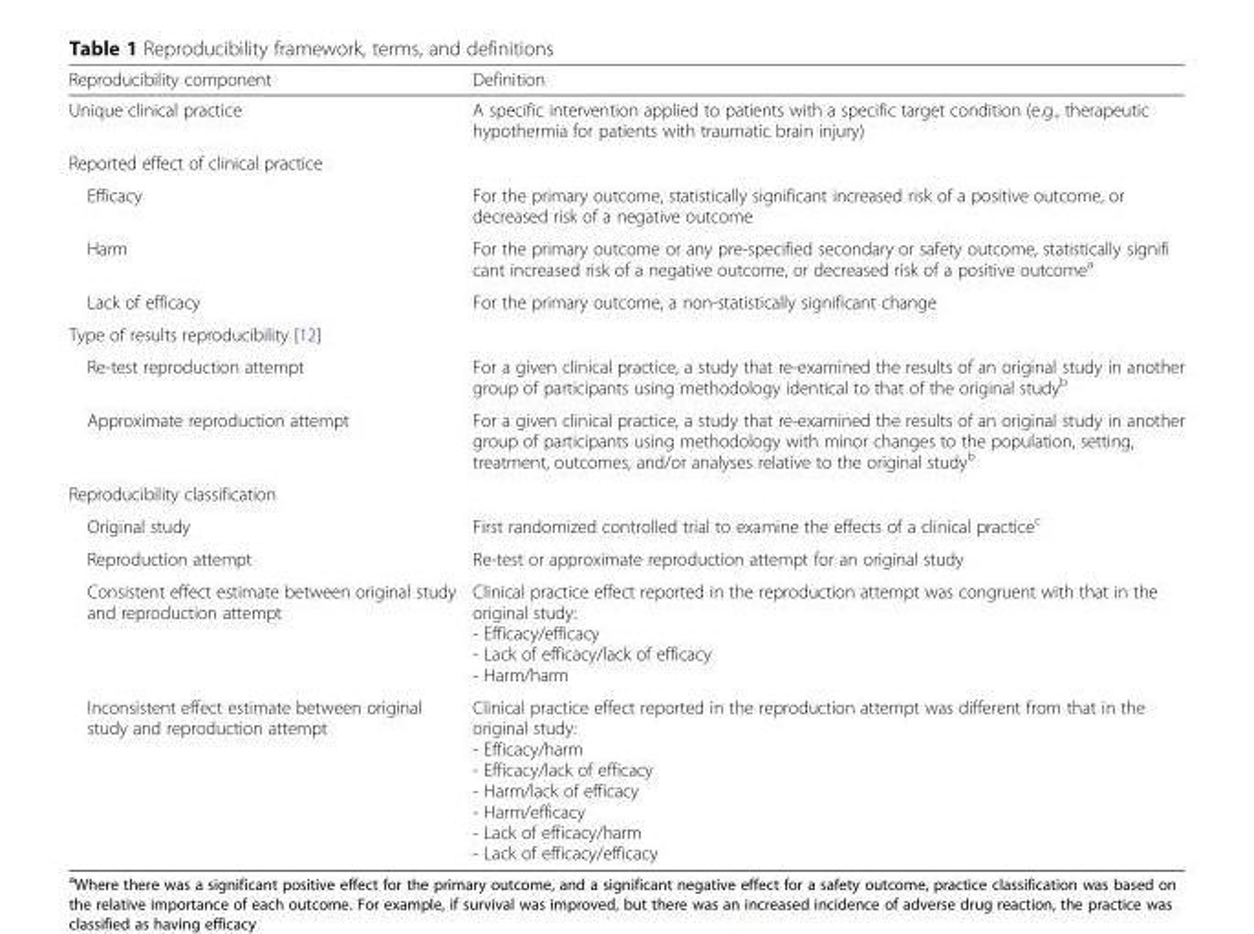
<table><thead><tr><td>Reproducibility component</td><td>Definition</td></tr></thead><tbody><tr><td>Unique clinical practice</td><td>A specific intervention applied to patients with a specific target condition (e.g., therapeutic hypothermia for patients with traumatic brain injury)</td></tr><tr><td colspan="2">Reported effect of clinical practice</td></tr><tr><td>Efficacy</td><td>For the primary outcome, statistically significant increased risk of a positive outcome, or decreased risk of a negative outcome</td></tr><tr><td>Harm</td><td>For the primary outcome or any pre-specified secondary or safety outcome, statistically signifi cant increased risk of a negative outcome, or decreased risk of a positive outcome<sup>a</sup></td></tr><tr><td>Lack of efficacy</td><td>For the primary outcome, a non-statistically significant change</td></tr><tr><td colspan="2">Type of results reproducibility [12]</td></tr><tr><td>Re-test reproduction attempt</td><td>For a given clinical practice, a study that re-examined the results of an original study in another group of participants using methodology identical to that of the original study<sup>b</sup></td></tr><tr><td>Approximate reproduction attempt</td><td>For a given clinical practice, a study that re-examined the results of an original study in another group of participants using methodology with minor changes to the population, setting, treatment, outcomes, and/or analyses relative to the original study<sup>b</sup></td></tr><tr><td colspan="2">Reproducibility classification</td></tr><tr><td>Original study</td><td>First randomized controlled trial to examine the effects of a clinical practice<sup>c</sup></td></tr><tr><td>Reproduction attempt</td><td>Re-test or approximate reproduction attempt for an original study</td></tr><tr><td>Consistent effect estimate between original study and reproduction attempt</td><td>Clinical practice effect reported in the reproduction attempt was congruent with that in the original study: - Efficacy/efficacy - Lack of efficacy/lack of efficacy - Harm/harm</td></tr><tr><td>Inconsistent effect estimate between original study and reproduction attempt</td><td>Clinical practice effect reported in the reproduction attempt was different from that in the original study: - Efficacy/harm - Efficacy/lack of efficacy - Harm/lack of efficacy - Harm/efficacy - Lack of efficacy/harm - Lack of efficacy/efficacy</td></tr></tbody></table>